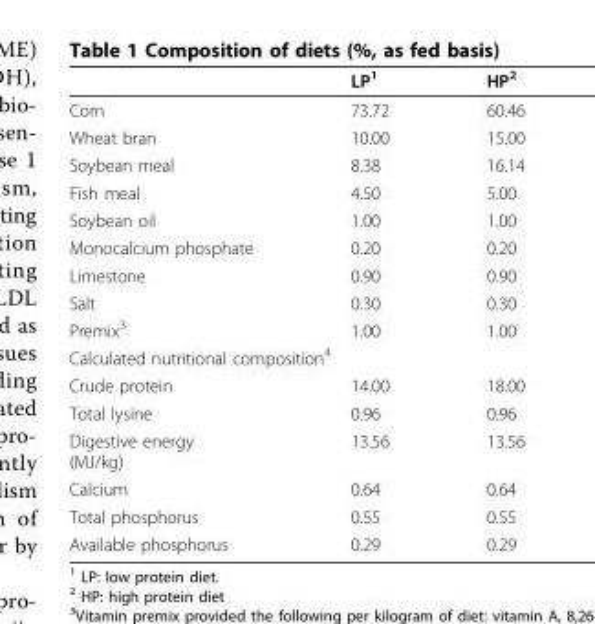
<table><thead><tr><td></td><td>LP<sup>1</sup></td><td>HP<sup>2</sup></td></tr></thead><tbody><tr><td>Corn</td><td>73.72</td><td>60.46</td></tr><tr><td>Wheat bran</td><td>10.00</td><td>15.00</td></tr><tr><td>Soybean meal</td><td>8.38</td><td>16.14</td></tr><tr><td>Fish meal</td><td>4.50</td><td>5.00</td></tr><tr><td>Soybean oil</td><td>1.00</td><td>1.00</td></tr><tr><td>Monocalcium phosphate</td><td>0.20</td><td>0.20</td></tr><tr><td>Limestone</td><td>0.90</td><td>0.90</td></tr><tr><td>Salt</td><td>0.30</td><td>0.30</td></tr><tr><td>Premix<sup>3</sup></td><td>1.00</td><td>1.00</td></tr><tr><td colspan="3">Calculated nutritional composition<sup>4</sup></td></tr><tr><td>Crude protein</td><td>14.00</td><td>18.00</td></tr><tr><td>Total lysine</td><td>0.96</td><td>0.96</td></tr><tr><td>Digestive energy (MJ/kg)</td><td>13.56</td><td>13.56</td></tr><tr><td>Calcium</td><td>0.64</td><td>0.64</td></tr><tr><td>Total phosphorus</td><td>0.55</td><td>0.55</td></tr><tr><td>Available phosphorus</td><td>0.29</td><td>0.29</td></tr></tbody></table>